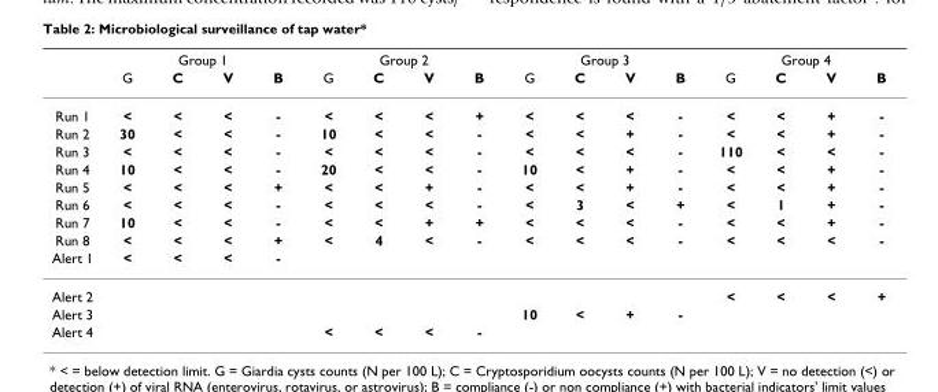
<table><thead><tr><td rowspan="2"></td><td colspan="4">Group 1</td><td colspan="4">Group 2</td><td colspan="4">Group 3</td><td colspan="4">Group 4</td></tr><tr><td>G</td><td>C</td><td>V</td><td>B</td><td>G</td><td>C</td><td>V</td><td>B</td><td>G</td><td>C</td><td>V</td><td>B</td><td>G</td><td>C</td><td>V</td><td>B</td></tr></thead><tbody><tr><td>Run 1</td><td>&lt;</td><td>&lt;</td><td>&lt;</td><td>-</td><td>&lt;</td><td>&lt;</td><td>&lt;</td><td>+</td><td>&lt;</td><td>&lt;</td><td>&lt;</td><td>-</td><td>&lt;</td><td>&lt;</td><td>+</td><td>-</td></tr><tr><td>Run 2</td><td>30</td><td>&lt;</td><td>&lt;</td><td>-</td><td>10</td><td>&lt;</td><td>&lt;</td><td>-</td><td>&lt;</td><td>&lt;</td><td>+</td><td>-</td><td>&lt;</td><td>&lt;</td><td>+</td><td>-</td></tr><tr><td>Run 3</td><td>&lt;</td><td>&lt;</td><td>&lt;</td><td>-</td><td>&lt;</td><td>&lt;</td><td>&lt;</td><td>-</td><td>&lt;</td><td>&lt;</td><td>&lt;</td><td>-</td><td>110</td><td>&lt;</td><td>&lt;</td><td>-</td></tr><tr><td>Run 4</td><td>10</td><td>&lt;</td><td>&lt;</td><td>-</td><td>20</td><td>&lt;</td><td>&lt;</td><td>-</td><td>10</td><td>&lt;</td><td>+</td><td>-</td><td>&lt;</td><td>&lt;</td><td>+</td><td>-</td></tr><tr><td>Run 5</td><td>&lt;</td><td>&lt;</td><td>&lt;</td><td>+</td><td>&lt;</td><td>&lt;</td><td>+</td><td>-</td><td>&lt;</td><td>&lt;</td><td>+</td><td>-</td><td>&lt;</td><td>&lt;</td><td>+</td><td>-</td></tr><tr><td>Run 6</td><td>&lt;</td><td>&lt;</td><td>&lt;</td><td>-</td><td>&lt;</td><td>&lt;</td><td>&lt;</td><td>-</td><td>&lt;</td><td>3</td><td>&lt;</td><td>+</td><td>&lt;</td><td>1</td><td>+</td><td>-</td></tr><tr><td>Run 7</td><td>10</td><td>&lt;</td><td>&lt;</td><td>-</td><td>&lt;</td><td>&lt;</td><td>+</td><td>+</td><td>&lt;</td><td>&lt;</td><td>&lt;</td><td>-</td><td>&lt;</td><td>&lt;</td><td>+</td><td>-</td></tr><tr><td>Run 8</td><td>&lt;</td><td>&lt;</td><td>&lt;</td><td>+</td><td>&lt;</td><td>4</td><td>&lt;</td><td>-</td><td>&lt;</td><td>&lt;</td><td>&lt;</td><td>-</td><td>&lt;</td><td>&lt;</td><td>&lt;</td><td>-</td></tr><tr><td>Alert 1</td><td>&lt;</td><td>&lt;</td><td>&lt;</td><td>-</td><td></td><td></td><td></td><td></td><td></td><td></td><td></td><td></td><td></td><td></td><td></td><td></td></tr><tr><td>Alert 2</td><td></td><td></td><td></td><td></td><td></td><td></td><td></td><td></td><td></td><td></td><td></td><td></td><td>&lt;</td><td>&lt;</td><td>&lt;</td><td>+</td></tr><tr><td>Alert 3</td><td></td><td></td><td></td><td></td><td></td><td></td><td></td><td></td><td>10</td><td>&lt;</td><td>+</td><td>-</td><td></td><td></td><td></td><td></td></tr><tr><td>Alert 4</td><td></td><td></td><td></td><td></td><td>&lt;</td><td>&lt;</td><td>&lt;</td><td>-</td><td></td><td></td><td></td><td></td><td></td><td></td><td></td><td></td></tr></tbody></table>